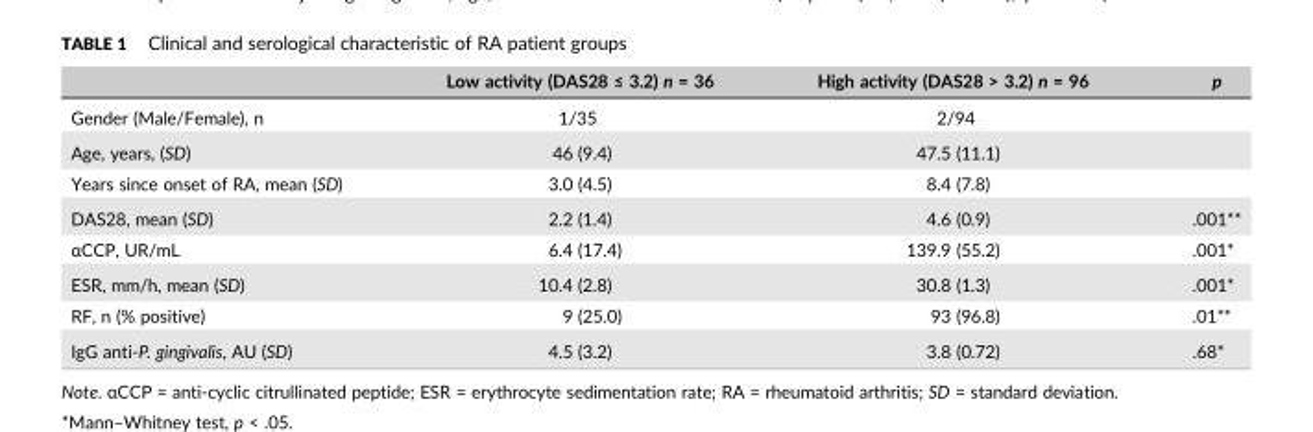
<table><thead><tr><td></td><td>Low activity (DAS28 ≤ 3.2) n = 36</td><td>High activity (DAS28 &gt; 3.2) n = 96</td><td>p</td></tr></thead><tbody><tr><td>Gender (Male/Female), n</td><td>1/35</td><td>2/94</td><td></td></tr><tr><td>Age, years, (SD)</td><td>46 (9.4)</td><td>47.5 (11.1)</td><td></td></tr><tr><td>Years since onset of RA, mean (SD)</td><td>3.0 (4.5)</td><td>8.4 (7.8)</td><td></td></tr><tr><td>DAS28, mean (SD)</td><td>2.2 (1.4)</td><td>4.6 (0.9)</td><td>.001**</td></tr><tr><td>αCCP, UR/mL</td><td>6.4 (17.4)</td><td>139.9 (55.2)</td><td>.001*</td></tr><tr><td>ESR, mm/h, mean (SD)</td><td>10.4 (2.8)</td><td>30.8 (1.3)</td><td>.001*</td></tr><tr><td>RF, n (% positive)</td><td>9 (25.0)</td><td>93 (96.8)</td><td>.01**</td></tr><tr><td>IgG anti‐P. gingivalis, AU (SD)</td><td>4.5 (3.2)</td><td>3.8 (0.72)</td><td>.68*</td></tr></tbody></table>